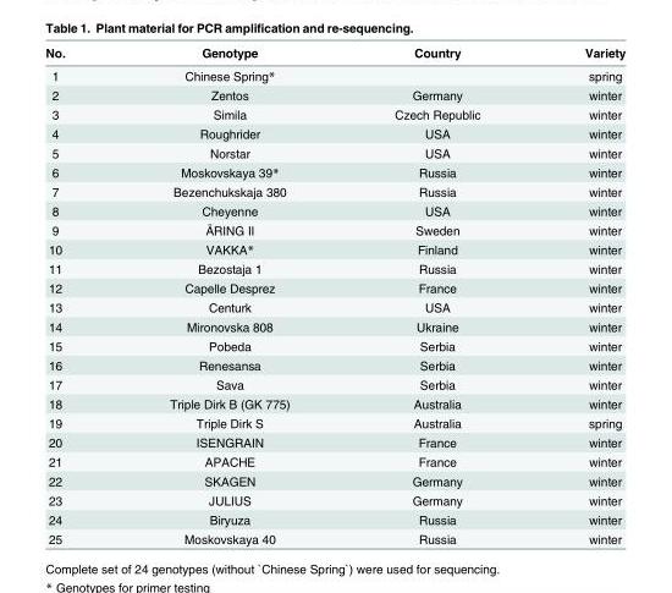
<table><thead><tr><td>No.</td><td>Genotype</td><td>Country</td><td>Variety</td></tr></thead><tbody><tr><td>1</td><td>Chinese Spring*</td><td></td><td>spring</td></tr><tr><td>2</td><td>Zentos</td><td>Germany</td><td>winter</td></tr><tr><td>3</td><td>Simila</td><td>Czech Republic</td><td>winter</td></tr><tr><td>4</td><td>Roughrider</td><td>USA</td><td>winter</td></tr><tr><td>5</td><td>Norstar</td><td>USA</td><td>winter</td></tr><tr><td>6</td><td>Moskovskaya 39*</td><td>Russia</td><td>winter</td></tr><tr><td>7</td><td>Bezenchukskaja 380</td><td>Russia</td><td>winter</td></tr><tr><td>8</td><td>Cheyenne</td><td>USA</td><td>winter</td></tr><tr><td>9</td><td>ÄRING II</td><td>Sweden</td><td>winter</td></tr><tr><td>10</td><td>VAKKA*</td><td>Finland</td><td>winter</td></tr><tr><td>11</td><td>Bezostaja 1</td><td>Russia</td><td>winter</td></tr><tr><td>12</td><td>Capelle Desprez</td><td>France</td><td>winter</td></tr><tr><td>13</td><td>Centurk</td><td>USA</td><td>winter</td></tr><tr><td>14</td><td>Mironovska 808</td><td>Ukraine</td><td>winter</td></tr><tr><td>15</td><td>Pobeda</td><td>Serbia</td><td>winter</td></tr><tr><td>16</td><td>Renesansa</td><td>Serbia</td><td>winter</td></tr><tr><td>17</td><td>Sava</td><td>Serbia</td><td>winter</td></tr><tr><td>18</td><td>Triple Dirk B (GK 775)</td><td>Australia</td><td>winter</td></tr><tr><td>19</td><td>Triple Dirk S</td><td>Australia</td><td>spring</td></tr><tr><td>20</td><td>ISENGRAIN</td><td>France</td><td>winter</td></tr><tr><td>21</td><td>APACHE</td><td>France</td><td>winter</td></tr><tr><td>22</td><td>SKAGEN</td><td>Germany</td><td>winter</td></tr><tr><td>23</td><td>JULIUS</td><td>Germany</td><td>winter</td></tr><tr><td>24</td><td>Biryuza</td><td>Russia</td><td>winter</td></tr><tr><td>25</td><td>Moskovskaya 40</td><td>Russia</td><td>winter</td></tr></tbody></table>